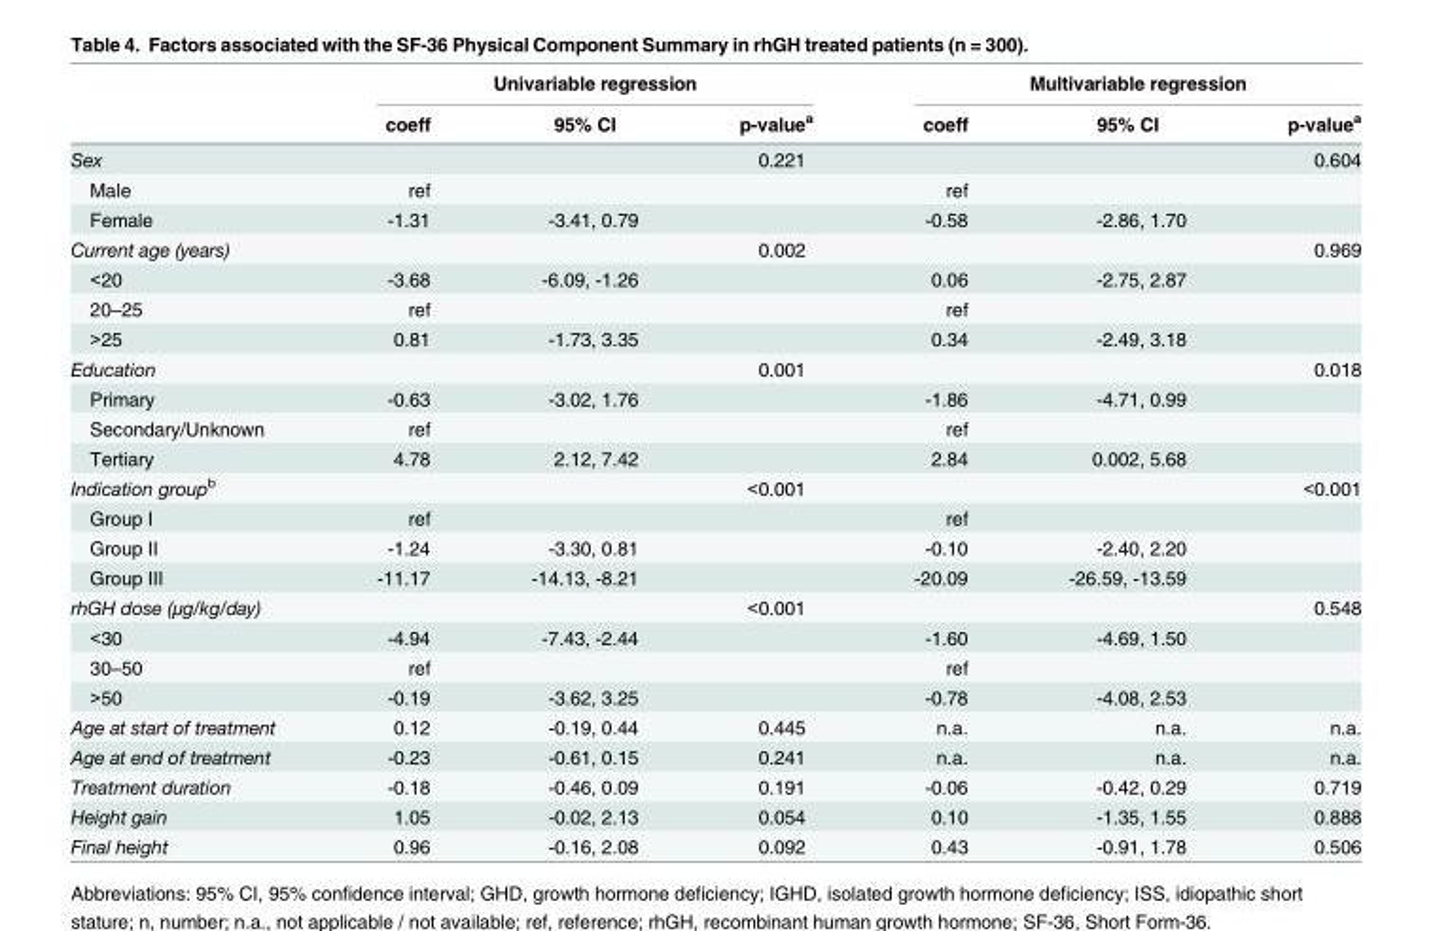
<table><thead><tr><td rowspan="2"></td><td colspan="3">Univariable regression</td><td colspan="3">Multivariable regression</td></tr><tr><td>coeff</td><td>95% CI</td><td>p-value<sup>a</sup></td><td>coeff</td><td>95% CI</td><td>p-value<sup>a</sup></td></tr></thead><tbody><tr><td>Sex</td><td></td><td></td><td>0.221</td><td></td><td></td><td>0.604</td></tr><tr><td>Male</td><td>ref</td><td></td><td></td><td>ref</td><td></td><td></td></tr><tr><td>Female</td><td>-1.31</td><td>-3.41, 0.79</td><td></td><td>-0.58</td><td>-2.86, 1.70</td><td></td></tr><tr><td>Current age (years)</td><td></td><td></td><td>0.002</td><td></td><td></td><td>0.969</td></tr><tr><td>&lt;20</td><td>-3.68</td><td>-6.09, -1.26</td><td></td><td>0.06</td><td>-2.75, 2.87</td><td></td></tr><tr><td>20–25</td><td>ref</td><td></td><td></td><td>ref</td><td></td><td></td></tr><tr><td>&gt;25</td><td>0.81</td><td>-1.73, 3.35</td><td></td><td>0.34</td><td>-2.49, 3.18</td><td></td></tr><tr><td>Education</td><td></td><td></td><td>0.001</td><td></td><td></td><td>0.018</td></tr><tr><td>Primary</td><td>-0.63</td><td>-3.02, 1.76</td><td></td><td>-1.86</td><td>-4.71, 0.99</td><td></td></tr><tr><td>Secondary/Unknown</td><td>ref</td><td></td><td></td><td>ref</td><td></td><td></td></tr><tr><td>Tertiary</td><td>4.78</td><td>2.12, 7.42</td><td></td><td>2.84</td><td>0.002, 5.68</td><td></td></tr><tr><td>Indication group<sup>b</sup></td><td></td><td></td><td>&lt;0.001</td><td></td><td></td><td>&lt;0.001</td></tr><tr><td>Group I</td><td>ref</td><td></td><td></td><td>ref</td><td></td><td></td></tr><tr><td>Group II</td><td>-1.24</td><td>-3.30, 0.81</td><td></td><td>-0.10</td><td>-2.40, 2.20</td><td></td></tr><tr><td>Group III</td><td>-11.17</td><td>-14.13, -8.21</td><td></td><td>-20.09</td><td>-26.59, -13.59</td><td></td></tr><tr><td>rhGH dose (μg/kg/day)</td><td></td><td></td><td>&lt;0.001</td><td></td><td></td><td>0.548</td></tr><tr><td>&lt;30</td><td>-4.94</td><td>-7.43, -2.44</td><td></td><td>-1.60</td><td>-4.69, 1.50</td><td></td></tr><tr><td>30–50</td><td>ref</td><td></td><td></td><td>ref</td><td></td><td></td></tr><tr><td>&gt;50</td><td>-0.19</td><td>-3.62, 3.25</td><td></td><td>-0.78</td><td>-4.08, 2.53</td><td></td></tr><tr><td>Age at start of treatment</td><td>0.12</td><td>-0.19, 0.44</td><td>0.445</td><td>n.a.</td><td>n.a.</td><td>n.a.</td></tr><tr><td>Age at end of treatment</td><td>-0.23</td><td>-0.61, 0.15</td><td>0.241</td><td>n.a.</td><td>n.a.</td><td>n.a.</td></tr><tr><td>Treatment duration</td><td>-0.18</td><td>-0.46, 0.09</td><td>0.191</td><td>-0.06</td><td>-0.42, 0.29</td><td>0.719</td></tr><tr><td>Height gain</td><td>1.05</td><td>-0.02, 2.13</td><td>0.054</td><td>0.10</td><td>-1.35, 1.55</td><td>0.888</td></tr><tr><td>Final height</td><td>0.96</td><td>-0.16, 2.08</td><td>0.092</td><td>0.43</td><td>-0.91, 1.78</td><td>0.506</td></tr></tbody></table>